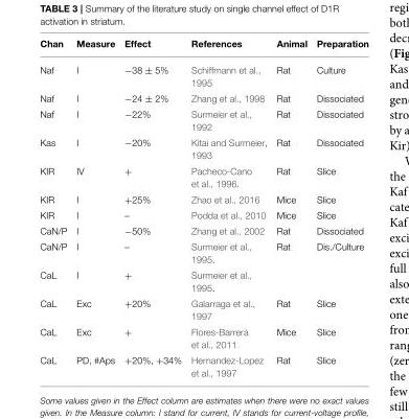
<table><thead><tr><td>Chan</td><td>Measure</td><td>Effect</td><td>References</td><td>Animal</td><td>Preparation</td></tr></thead><tbody><tr><td>Naf</td><td>I</td><td>−38 ± 5%</td><td>Schiffmann et al., 1995</td><td>Rat</td><td>Culture</td></tr><tr><td>Naf</td><td>I</td><td>−24 ± 2%</td><td>Zhang et al., 1998</td><td>Rat</td><td>Dissociated</td></tr><tr><td>Naf</td><td>I</td><td>−22%</td><td>Surmeier et al., 1992</td><td>Rat</td><td>Dissociated</td></tr><tr><td>Kas</td><td>I</td><td>−20%</td><td>Kitai and Surmeier, 1993</td><td>Rat</td><td>Dissociated</td></tr><tr><td>KIR</td><td>IV</td><td>+</td><td>Pacheco-Cano et al., 1996.</td><td>Rat</td><td>Slice</td></tr><tr><td>KIR</td><td>I</td><td>+25%</td><td>Zhao et al., 2016</td><td>Mice</td><td>Slice</td></tr><tr><td>KIR</td><td>I</td><td>–</td><td>Podda et al., 2010</td><td>Mice</td><td>Slice</td></tr><tr><td>CaN/P</td><td>I</td><td>−50%</td><td>Zhang et al., 2002</td><td>Rat</td><td>Dissociated</td></tr><tr><td>CaN/P</td><td>I</td><td>–</td><td>Surmeier et al., 1995.</td><td>Rat</td><td>Dis./Culture</td></tr><tr><td>CaL</td><td>I</td><td>+</td><td>Surmeier et al., 1995.</td><td></td><td></td></tr><tr><td>CaL</td><td>Exc</td><td>+20%</td><td>Galarraga et al., 1997</td><td>Rat</td><td>Slice</td></tr><tr><td>CaL</td><td>Exc</td><td>+</td><td>Flores-Barrera et al., 2011</td><td>Mice</td><td>Slice</td></tr><tr><td>CaL</td><td>PD, #Aps</td><td>+20%, +34%</td><td>Hernandez-Lopez et al., 1997</td><td>Rat</td><td>Slice</td></tr></tbody></table>